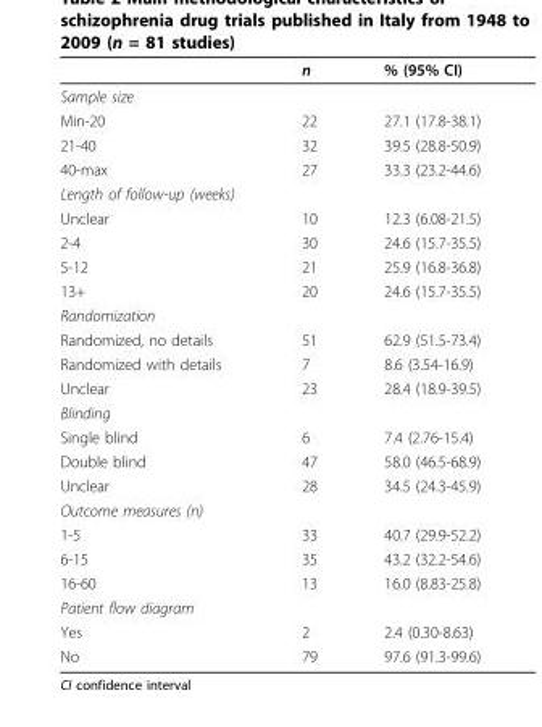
<table><thead><tr><td></td><td>n</td><td>% (95% CI)</td></tr></thead><tbody><tr><td colspan="3">Sample size</td></tr><tr><td>Min-20</td><td>22</td><td>27.1 (17.8-38.1)</td></tr><tr><td>21-40</td><td>32</td><td>39.5 (28.8-50.9)</td></tr><tr><td>40-max</td><td>27</td><td>33.3 (23.2-44.6)</td></tr><tr><td colspan="3">Length of follow-up (weeks)</td></tr><tr><td>Unclear</td><td>10</td><td>12.3 (6.08-21.5)</td></tr><tr><td>2-4</td><td>30</td><td>24.6 (15.7-35.5)</td></tr><tr><td>5-12</td><td>21</td><td>25.9 (16.8-36.8)</td></tr><tr><td>13+</td><td>20</td><td>24.6 (15.7-35.5)</td></tr><tr><td colspan="3">Randomization</td></tr><tr><td>Randomized, no details</td><td>51</td><td>62.9 (51.5-73.4)</td></tr><tr><td>Randomized with details</td><td>7</td><td>8.6 (3.54-16.9)</td></tr><tr><td>Unclear</td><td>23</td><td>28.4 (18.9-39.5)</td></tr><tr><td colspan="3">Blinding</td></tr><tr><td>Single blind</td><td>6</td><td>7.4 (2.76-15.4)</td></tr><tr><td>Double blind</td><td>47</td><td>58.0 (46.5-68.9)</td></tr><tr><td>Unclear</td><td>28</td><td>34.5 (24.3-45.9)</td></tr><tr><td colspan="3">Outcome measures (n)</td></tr><tr><td>1-5</td><td>33</td><td>40.7 (29.9-52.2)</td></tr><tr><td>6-15</td><td>35</td><td>43.2 (32.2-54.6)</td></tr><tr><td>16-60</td><td>13</td><td>16.0 (8.83-25.8)</td></tr><tr><td colspan="3">Patient flow diagram</td></tr><tr><td>Yes</td><td>2</td><td>2.4 (0.30-8.63)</td></tr><tr><td>No</td><td>79</td><td>97.6 (91.3-99.6)</td></tr></tbody></table>